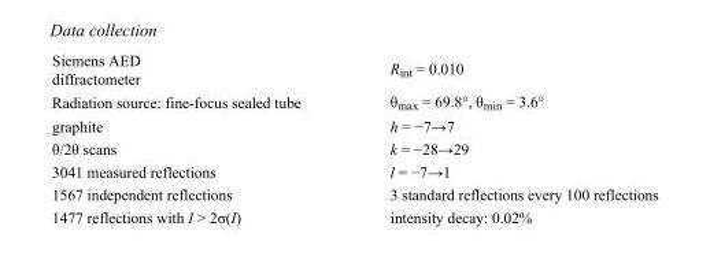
<table><tbody><tr><td>Siemens AED diffractometer</td><td>R<sub>int</sub> = 0.010</td></tr><tr><td>Radiation source: fine-focus sealed tube</td><td>θ<sub>max</sub> = 69.8°, θ<sub>min</sub> = 3.6°</td></tr><tr><td>graphite</td><td>h = −7→7</td></tr><tr><td>θ/2θ scans</td><td>k = −28→29</td></tr><tr><td>3041 measured reflections</td><td>l = −7→1</td></tr><tr><td>1567 independent reflections</td><td>3 standard reflections every 100 reflections</td></tr><tr><td>1477 reflections with I &gt; 2σ(I)</td><td>intensity decay: 0.02%</td></tr></tbody></table>